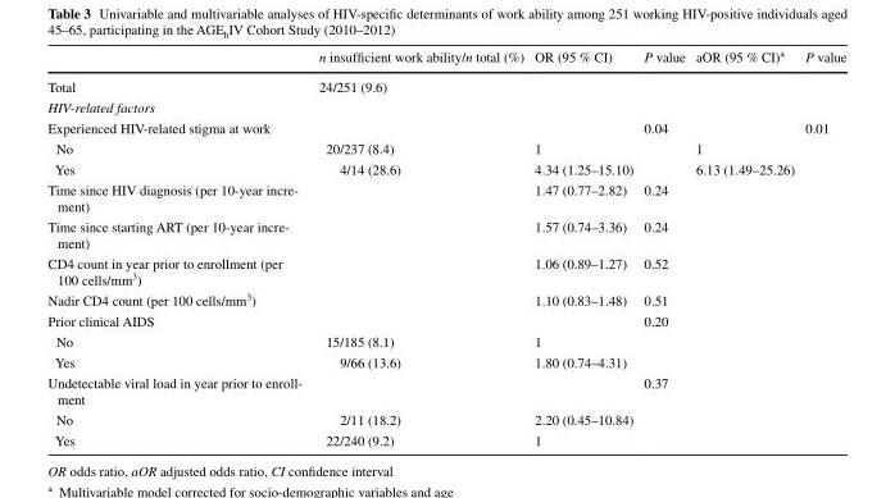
<table><thead><tr><td></td><td>n insufficient work ability/n total (%)</td><td>OR (95 % CI)</td><td>P value</td><td>aOR (95 % CI)<sup>a</sup></td><td>P value</td></tr></thead><tbody><tr><td>Total</td><td colspan="5">24/251 (9.6)</td></tr><tr><td colspan="6">HIV-related factors</td></tr><tr><td>Experienced HIV-related stigma at work</td><td></td><td></td><td>0.04</td><td></td><td>0.01</td></tr><tr><td>No</td><td>20/237 (8.4)</td><td>1</td><td></td><td>1</td><td></td></tr><tr><td>Yes</td><td>4/14 (28.6)</td><td>4.34 (1.25–15.10)</td><td></td><td>6.13 (1.49–25.26)</td><td></td></tr><tr><td>Time since HIV diagnosis (per 10-year incre- ment)</td><td></td><td>1.47 (0.77–2.82)</td><td>0.24</td><td></td><td></td></tr><tr><td>Time since starting ART (per 10-year incre- ment)</td><td></td><td>1.57 (0.74–3.36)</td><td>0.24</td><td></td><td></td></tr><tr><td>CD4 count in year prior to enrollment (per 100 cells/mm<sup>3</sup>)</td><td></td><td>1.06 (0.89–1.27)</td><td>0.52</td><td></td><td></td></tr><tr><td>Nadir CD4 count (per 100 cells/mm<sup>3</sup>)</td><td></td><td>1.10 (0.83–1.48)</td><td>0.51</td><td></td><td></td></tr><tr><td>Prior clinical AIDS</td><td></td><td></td><td>0.20</td><td></td><td></td></tr><tr><td>No</td><td>15/185 (8.1)</td><td>1</td><td></td><td></td><td></td></tr><tr><td>Yes</td><td>9/66 (13.6)</td><td>1.80 (0.74–4.31)</td><td></td><td></td><td></td></tr><tr><td>Undetectable viral load in year prior to enroll- ment</td><td></td><td></td><td>0.37</td><td></td><td></td></tr><tr><td>No</td><td>2/11 (18.2)</td><td>2.20 (0.45–10.84)</td><td></td><td></td><td></td></tr><tr><td>Yes</td><td>22/240 (9.2)</td><td>1</td><td></td><td></td><td></td></tr></tbody></table>